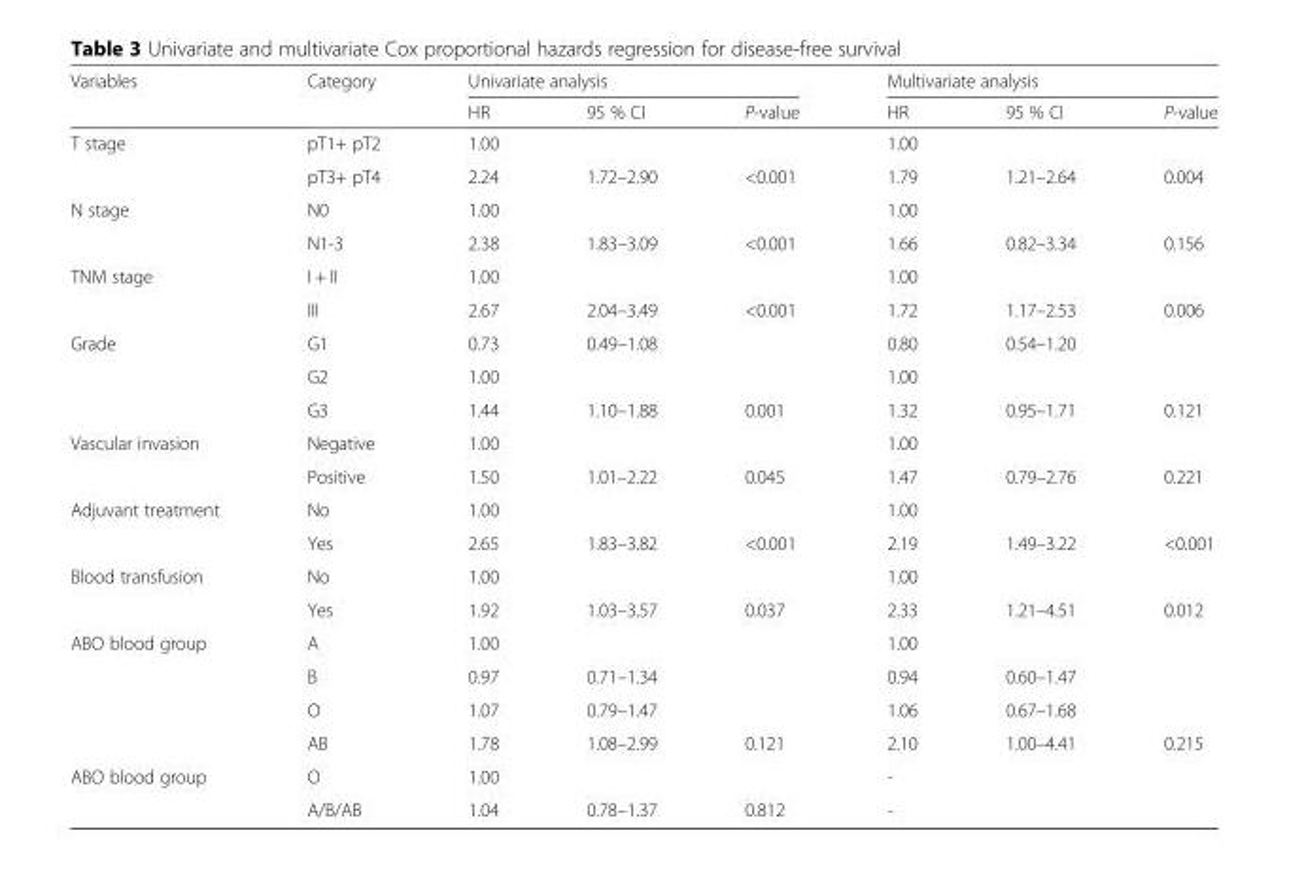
<table><thead><tr><td rowspan="2">Variables</td><td rowspan="2">Category</td><td colspan="3">Univariate analysis</td><td colspan="3">Multivariate analysis</td></tr><tr><td>HR</td><td>95 % CI</td><td>P-value</td><td>HR</td><td>95 % CI</td><td>P-value</td></tr></thead><tbody><tr><td rowspan="2">T stage</td><td>pT1+ pT2</td><td>1.00</td><td></td><td></td><td>1.00</td><td></td><td></td></tr><tr><td>pT3+ pT4</td><td>2.24</td><td>1.72–2.90</td><td>&lt;0.001</td><td>1.79</td><td>1.21–2.64</td><td>0.004</td></tr><tr><td rowspan="2">N stage</td><td>N0</td><td>1.00</td><td></td><td></td><td>1.00</td><td></td><td></td></tr><tr><td>N1-3</td><td>2.38</td><td>1.83–3.09</td><td>&lt;0.001</td><td>1.66</td><td>0.82–3.34</td><td>0.156</td></tr><tr><td rowspan="2">TNM stage</td><td>I + II</td><td>1.00</td><td></td><td></td><td>1.00</td><td></td><td></td></tr><tr><td>III</td><td>2.67</td><td>2.04–3.49</td><td>&lt;0.001</td><td>1.72</td><td>1.17–2.53</td><td>0.006</td></tr><tr><td rowspan="3">Grade</td><td>G1</td><td>0.73</td><td>0.49–1.08</td><td></td><td>0.80</td><td>0.54–1.20</td><td></td></tr><tr><td>G2</td><td>1.00</td><td></td><td></td><td>1.00</td><td></td><td></td></tr><tr><td>G3</td><td>1.44</td><td>1.10–1.88</td><td>0.001</td><td>1.32</td><td>0.95–1.71</td><td>0.121</td></tr><tr><td rowspan="2">Vascular invasion</td><td>Negative</td><td>1.00</td><td></td><td></td><td>1.00</td><td></td><td></td></tr><tr><td>Positive</td><td>1.50</td><td>1.01–2.22</td><td>0.045</td><td>1.47</td><td>0.79–2.76</td><td>0.221</td></tr><tr><td rowspan="2">Adjuvant treatment</td><td>No</td><td>1.00</td><td></td><td></td><td>1.00</td><td></td><td></td></tr><tr><td>Yes</td><td>2.65</td><td>1.83–3.82</td><td>&lt;0.001</td><td>2.19</td><td>1.49–3.22</td><td>&lt;0.001</td></tr><tr><td rowspan="2">Blood transfusion</td><td>No</td><td>1.00</td><td></td><td></td><td>1.00</td><td></td><td></td></tr><tr><td>Yes</td><td>1.92</td><td>1.03–3.57</td><td>0.037</td><td>2.33</td><td>1.21–4.51</td><td>0.012</td></tr><tr><td rowspan="4">ABO blood group</td><td>A</td><td>1.00</td><td></td><td></td><td>1.00</td><td></td><td></td></tr><tr><td>B</td><td>0.97</td><td>0.71–1.34</td><td></td><td>0.94</td><td>0.60–1.47</td><td></td></tr><tr><td>O</td><td>1.07</td><td>0.79–1.47</td><td></td><td>1.06</td><td>0.67–1.68</td><td></td></tr><tr><td>AB</td><td>1.78</td><td>1.08–2.99</td><td>0.121</td><td>2.10</td><td>1.00–4.41</td><td>0.215</td></tr><tr><td rowspan="2">ABO blood group</td><td>O</td><td>1.00</td><td></td><td></td><td>-</td><td></td><td></td></tr><tr><td>A/B/AB</td><td>1.04</td><td>0.78–1.37</td><td>0.812</td><td>-</td><td></td><td></td></tr></tbody></table>